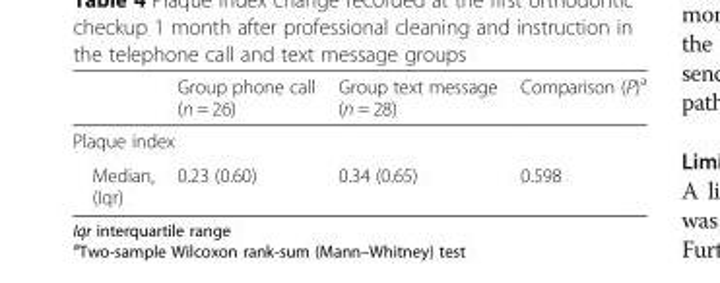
<table><thead><tr><td></td><td>Group phone call (n = 26)</td><td>Group text message (n = 28)</td><td>Comparison (P)<sup>a</sup></td></tr></thead><tbody><tr><td colspan="4">Plaque index</td></tr><tr><td>Median, (Iqr)</td><td>0.23 (0.60)</td><td>0.34 (0.65)</td><td>0.598</td></tr></tbody></table>